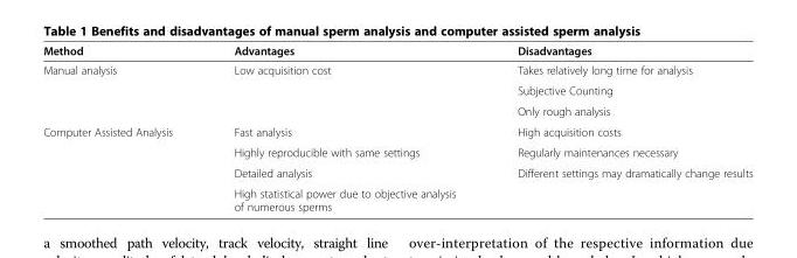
<table><thead><tr><td>Method</td><td>Advantages</td><td>Disadvantages</td></tr></thead><tbody><tr><td rowspan="3">Manual analysis</td><td rowspan="3">Low acquisition cost</td><td>Takes relatively long time for analysis</td></tr><tr><td>Subjective Counting</td></tr><tr><td>Only rough analysis</td></tr><tr><td rowspan="4">Computer Assisted Analysis</td><td>Fast analysis</td><td>High acquisition costs</td></tr><tr><td>Highly reproducible with same settings</td><td>Regularly maintenances necessary</td></tr><tr><td>Detailed analysis</td><td>Different settings may dramatically change results</td></tr><tr><td>High statistical power due to objective analysis of numerous sperms</td><td></td></tr></tbody></table>